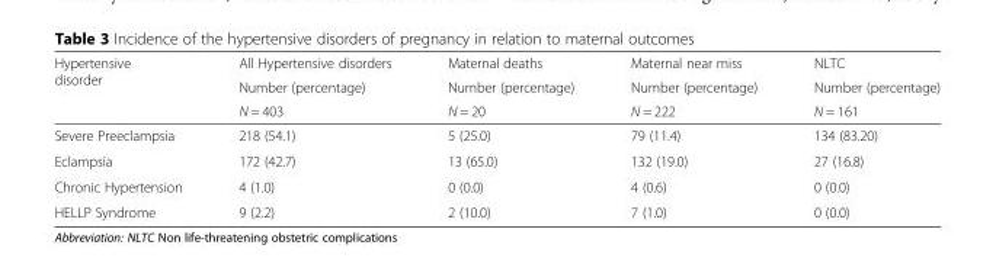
<table><thead><tr><td rowspan="3">Hypertensive disorder</td><td rowspan="3">All Hypertensive disorders Number (percentage) N = 403</td><td rowspan="3">Maternal deaths Number (percentage) N = 20</td><td rowspan="3">Maternal near miss Number (percentage) N = 222</td><td rowspan="3">NLTC Number (percentage) N = 161</td></tr><tr></tr><tr></tr></thead><tbody><tr><td>Severe Preeclampsia</td><td>218 (54.1)</td><td>5 (25.0)</td><td>79 (11.4)</td><td>134 (83.20)</td></tr><tr><td>Eclampsia</td><td>172 (42.7)</td><td>13 (65.0)</td><td>132 (19.0)</td><td>27 (16.8)</td></tr><tr><td>Chronic Hypertension</td><td>4 (1.0)</td><td>0 (0.0)</td><td>4 (0.6)</td><td>0 (0.0)</td></tr><tr><td>HELLP Syndrome</td><td>9 (2.2)</td><td>2 (10.0)</td><td>7 (1.0)</td><td>0 (0.0)</td></tr></tbody></table>